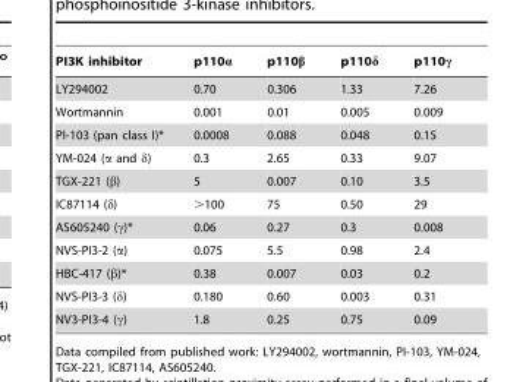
<table><thead><tr><td>PI3K inhibitor</td><td>p110α</td><td>p110β</td><td>p110δ</td><td>p110γ</td></tr></thead><tbody><tr><td>LY294002</td><td>0.70</td><td>0.306</td><td>1.33</td><td>7.26</td></tr><tr><td>Wortmannin</td><td>0.001</td><td>0.01</td><td>0.005</td><td>0.009</td></tr><tr><td>PI-103 (pan class I)*</td><td>0.0008</td><td>0.088</td><td>0.048</td><td>0.15</td></tr><tr><td>YM-024 (α and δ)</td><td>0.3</td><td>2.65</td><td>0.33</td><td>9.07</td></tr><tr><td>TGX-221 (β)</td><td>5</td><td>0.007</td><td>0.10</td><td>3.5</td></tr><tr><td>IC87114 (δ)</td><td>&gt;100</td><td>75</td><td>0.50</td><td>29</td></tr><tr><td>AS605240 (γ)*</td><td>0.06</td><td>0.27</td><td>0.3</td><td>0.008</td></tr><tr><td>NVS-PI3-2 (α)</td><td>0.075</td><td>5.5</td><td>0.98</td><td>2.4</td></tr><tr><td>HBC-417 (β)*</td><td>0.38</td><td>0.007</td><td>0.03</td><td>0.2</td></tr><tr><td>NVS-PI3-3 (δ)</td><td>0.180</td><td>0.60</td><td>0.003</td><td>0.31</td></tr><tr><td>NV3-PI3-4 (γ)</td><td>1.8</td><td>0.25</td><td>0.75</td><td>0.09</td></tr></tbody></table>